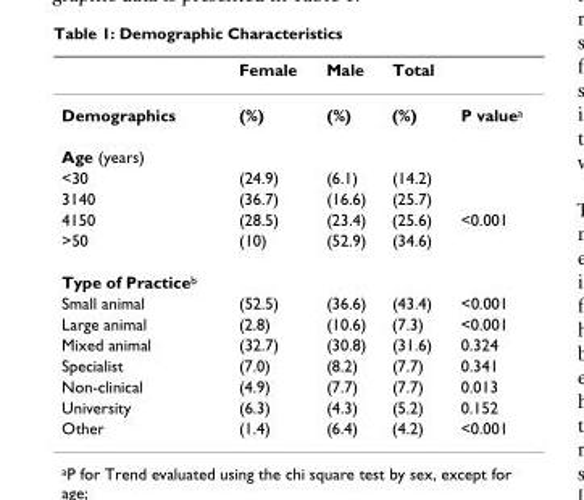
<table><thead><tr><td></td><td>Female</td><td>Male</td><td>Total</td><td></td></tr></thead><tbody><tr><td>Demographics</td><td>(%)</td><td>(%)</td><td>(%)</td><td>P value<sup>a</sup></td></tr><tr><td colspan="5">Age (years)</td></tr><tr><td>&lt;30</td><td>(24.9)</td><td>(6.1)</td><td>(14.2)</td><td></td></tr><tr><td>3140</td><td>(36.7)</td><td>(16.6)</td><td>(25.7)</td><td></td></tr><tr><td>4150</td><td>(28.5)</td><td>(23.4)</td><td>(25.6)</td><td>&lt;0.001</td></tr><tr><td>&gt;50</td><td>(10)</td><td>(52.9)</td><td>(34.6)</td><td></td></tr><tr><td colspan="5">Type of Practice<sup>b</sup></td></tr><tr><td>Small animal</td><td>(52.5)</td><td>(36.6)</td><td>(43.4)</td><td>&lt;0.001</td></tr><tr><td>Large animal</td><td>(2.8)</td><td>(10.6)</td><td>(7.3)</td><td>&lt;0.001</td></tr><tr><td>Mixed animal</td><td>(32.7)</td><td>(30.8)</td><td>(31.6)</td><td>0.324</td></tr><tr><td>Specialist</td><td>(7.0)</td><td>(8.2)</td><td>(7.7)</td><td>0.341</td></tr><tr><td>Non-clinical</td><td>(4.9)</td><td>(7.7)</td><td>(7.7)</td><td>0.013</td></tr><tr><td>University</td><td>(6.3)</td><td>(4.3)</td><td>(5.2)</td><td>0.152</td></tr><tr><td>Other</td><td>(1.4)</td><td>(6.4)</td><td>(4.2)</td><td>&lt;0.001</td></tr></tbody></table>